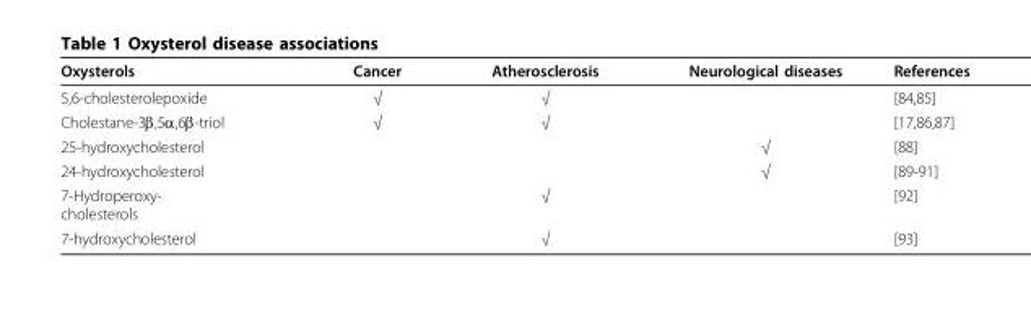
<table><thead><tr><td>Oxysterols</td><td>Cancer</td><td>Atherosclerosis</td><td>Neurological diseases</td><td>References</td></tr></thead><tbody><tr><td>5,6-cholesterolepoxide</td><td>√</td><td>√</td><td></td><td>[84,85]</td></tr><tr><td>Cholestane-3β,5α,6β-triol</td><td>√</td><td>√</td><td></td><td>[17,86,87]</td></tr><tr><td>25-hydroxycholesterol</td><td></td><td></td><td>√</td><td>[88]</td></tr><tr><td>24-hydroxycholesterol</td><td></td><td></td><td>√</td><td>[89-91]</td></tr><tr><td>7-Hydroperoxy- cholesterols</td><td></td><td>√</td><td></td><td>[92]</td></tr><tr><td>7-hydroxycholesterol</td><td></td><td>√</td><td></td><td>[93]</td></tr></tbody></table>